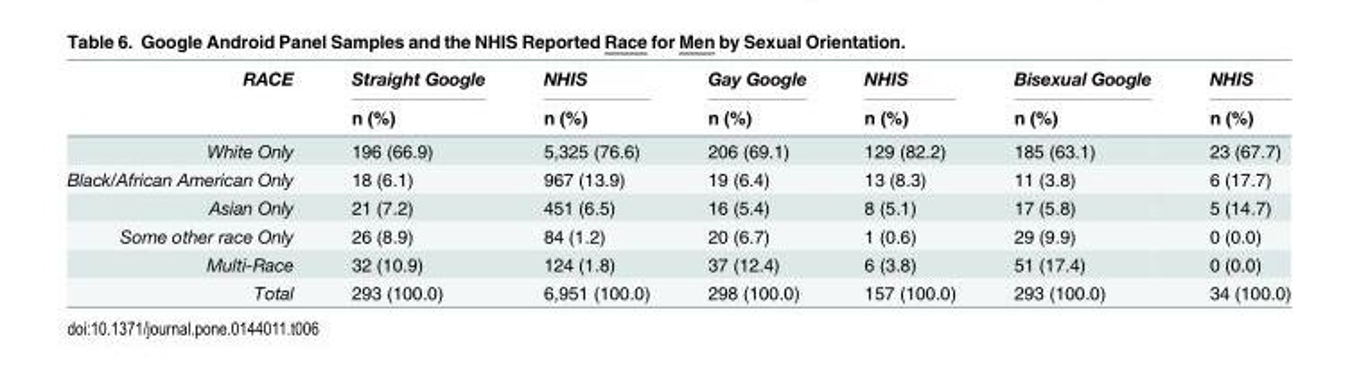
<table><thead><tr><td rowspan="2">RACE</td><td rowspan="2">Straight Google n (%)</td><td rowspan="2">NHIS n (%)</td><td rowspan="2">Gay Google n (%)</td><td rowspan="2">NHIS n (%)</td><td rowspan="2">Bisexual Google n (%)</td><td rowspan="2">NHIS n (%)</td></tr><tr></tr></thead><tbody><tr><td>White Only</td><td>196 (66.9)</td><td>5,325 (76.6)</td><td>206 (69.1)</td><td>129 (82.2)</td><td>185 (63.1)</td><td>23 (67.7)</td></tr><tr><td>Black/African American Only</td><td>18 (6.1)</td><td>967 (13.9)</td><td>19 (6.4)</td><td>13 (8.3)</td><td>11 (3.8)</td><td>6 (17.7)</td></tr><tr><td>Asian Only</td><td>21 (7.2)</td><td>451 (6.5)</td><td>16 (5.4)</td><td>8 (5.1)</td><td>17 (5.8)</td><td>5 (14.7)</td></tr><tr><td>Some other race Only</td><td>26 (8.9)</td><td>84 (1.2)</td><td>20 (6.7)</td><td>1 (0.6)</td><td>29 (9.9)</td><td>0 (0.0)</td></tr><tr><td>Multi-Race</td><td>32 (10.9)</td><td>124 (1.8)</td><td>37 (12.4)</td><td>6 (3.8)</td><td>51 (17.4)</td><td>0 (0.0)</td></tr><tr><td>Total</td><td>293 (100.0)</td><td>6,951 (100.0)</td><td>298 (100.0)</td><td>157 (100.0)</td><td>293 (100.0)</td><td>34 (100.0)</td></tr></tbody></table>